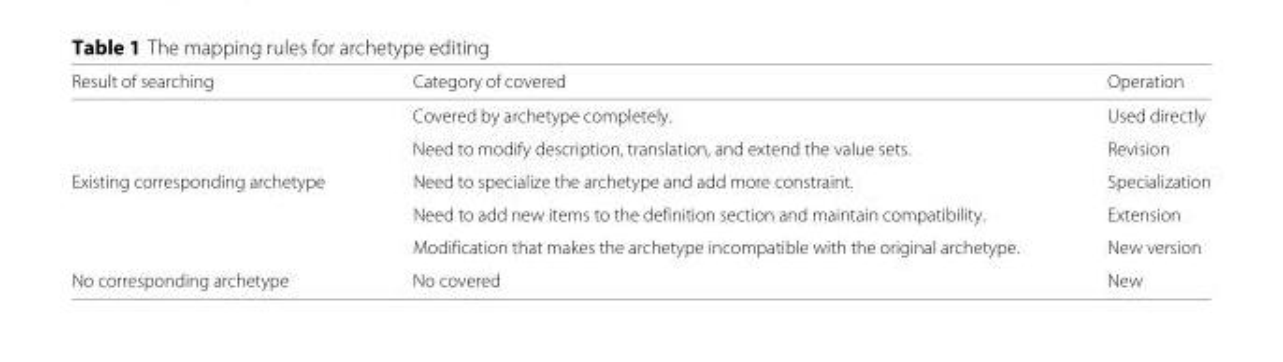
<table><thead><tr><td>Result of searching</td><td>Category of covered</td><td>Operation</td></tr></thead><tbody><tr><td></td><td>Covered by archetype completely.</td><td>Used directly</td></tr><tr><td></td><td>Need to modify description, translation, and extend the value sets.</td><td>Revision</td></tr><tr><td rowspan="3">Existing corresponding archetype</td><td>Need to specialize the archetype and add more constraint.</td><td>Specialization</td></tr><tr><td>Need to add new items to the definition section and maintain compatibility.</td><td>Extension</td></tr><tr><td>Modification that makes the archetype incompatible with the original archetype.</td><td>New version</td></tr><tr><td>No corresponding archetype</td><td>No covered</td><td>New</td></tr></tbody></table>